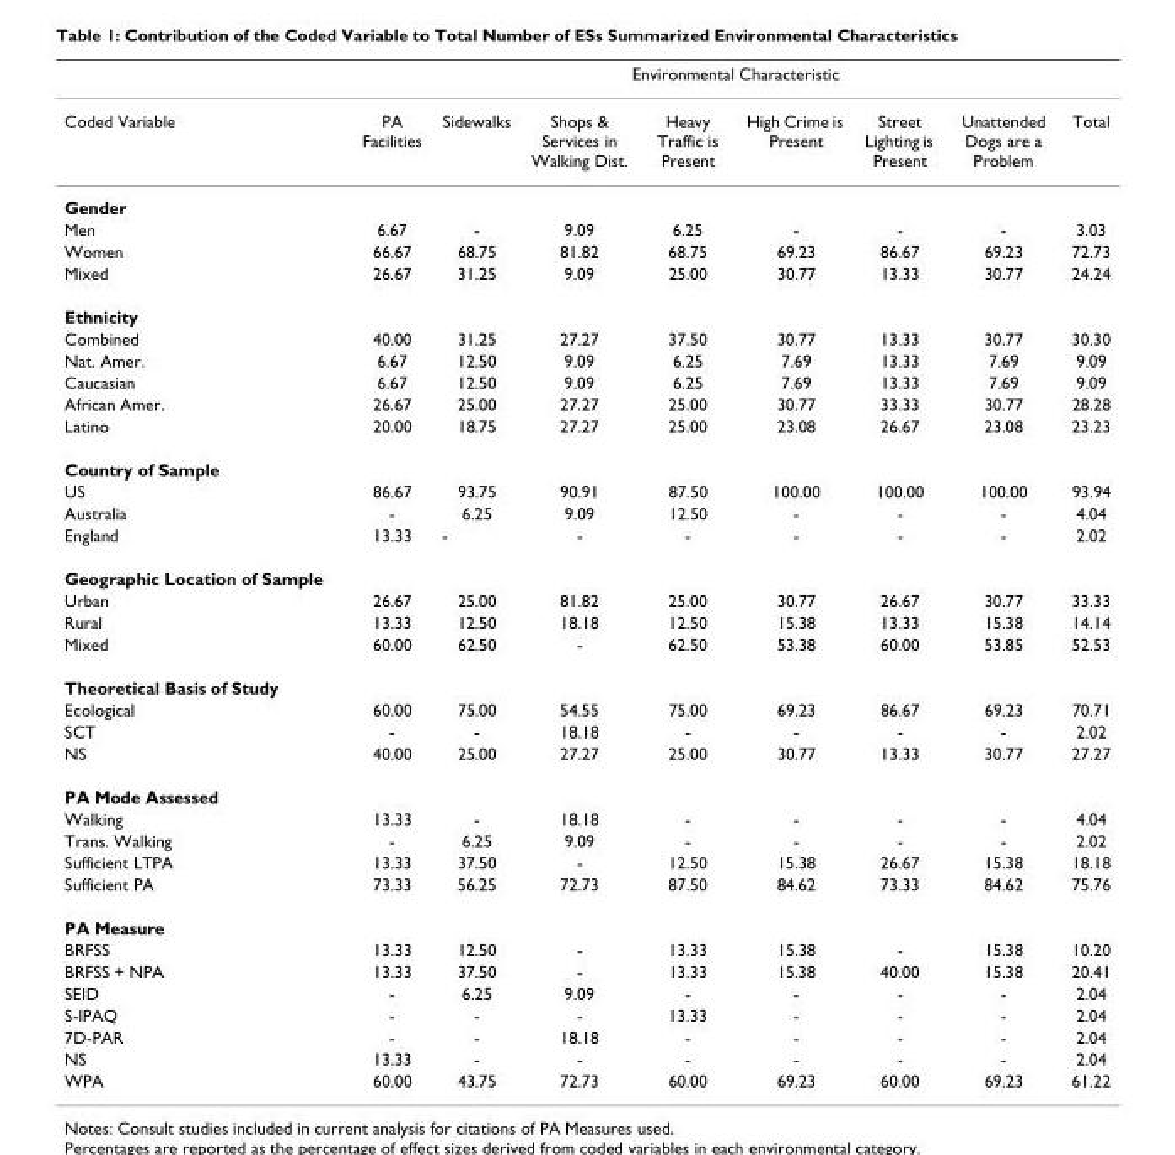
<table><thead><tr><td rowspan="2">Coded Variable</td><td colspan="8">Environmental Characteristic</td></tr><tr><td>PA Facilities</td><td>Sidewalks</td><td>Shops &amp; Services in Walking Dist.</td><td>Heavy Traffic is Present</td><td>High Crime is Present</td><td>Street Lighting is Present</td><td>Unattended Dogs are a Problem</td><td>Total</td></tr></thead><tbody><tr><td colspan="9">Gender</td></tr><tr><td>Men</td><td>6.67</td><td>-</td><td>9.09</td><td>6.25</td><td>-</td><td>-</td><td>-</td><td>3.03</td></tr><tr><td>Women</td><td>66.67</td><td>68.75</td><td>81.82</td><td>68.75</td><td>69.23</td><td>86.67</td><td>69.23</td><td>72.73</td></tr><tr><td>Mixed</td><td>26.67</td><td>31.25</td><td>9.09</td><td>25.00</td><td>30.77</td><td>13.33</td><td>30.77</td><td>24.24</td></tr><tr><td colspan="9">Ethnicity</td></tr><tr><td>Combined</td><td>40.00</td><td>31.25</td><td>27.27</td><td>37.50</td><td>30.77</td><td>13.33</td><td>30.77</td><td>30.30</td></tr><tr><td>Nat. Amer.</td><td>6.67</td><td>12.50</td><td>9.09</td><td>6.25</td><td>7.69</td><td>13.33</td><td>7.69</td><td>9.09</td></tr><tr><td>Caucasian</td><td>6.67</td><td>12.50</td><td>9.09</td><td>6.25</td><td>7.69</td><td>13.33</td><td>7.69</td><td>9.09</td></tr><tr><td>African Amer.</td><td>26.67</td><td>25.00</td><td>27.27</td><td>25.00</td><td>30.77</td><td>33.33</td><td>30.77</td><td>28.28</td></tr><tr><td>Latino</td><td>20.00</td><td>18.75</td><td>27.27</td><td>25.00</td><td>23.08</td><td>26.67</td><td>23.08</td><td>23.23</td></tr><tr><td colspan="9">Country of Sample</td></tr><tr><td>US</td><td>86.67</td><td>93.75</td><td>90.91</td><td>87.50</td><td>100.00</td><td>100.00</td><td>100.00</td><td>93.94</td></tr><tr><td>Australia</td><td>-</td><td>6.25</td><td>9.09</td><td>12.50</td><td>-</td><td>-</td><td>-</td><td>4.04</td></tr><tr><td>England</td><td>13.33</td><td>-</td><td>-</td><td>-</td><td>-</td><td>-</td><td>-</td><td>2.02</td></tr><tr><td colspan="9">Geographic Location of Sample</td></tr><tr><td>Urban</td><td>26.67</td><td>25.00</td><td>81.82</td><td>25.00</td><td>30.77</td><td>26.67</td><td>30.77</td><td>33.33</td></tr><tr><td>Rural</td><td>13.33</td><td>12.50</td><td>18.18</td><td>12.50</td><td>15.38</td><td>13.33</td><td>15.38</td><td>14.14</td></tr><tr><td>Mixed</td><td>60.00</td><td>62.50</td><td>-</td><td>62.50</td><td>53.38</td><td>60.00</td><td>53.85</td><td>52.53</td></tr><tr><td colspan="9">Theoretical Basis of Study</td></tr><tr><td>Ecological</td><td>60.00</td><td>75.00</td><td>54.55</td><td>75.00</td><td>69.23</td><td>86.67</td><td>69.23</td><td>70.71</td></tr><tr><td>SCT</td><td>-</td><td>-</td><td>18.18</td><td>-</td><td>-</td><td>-</td><td>-</td><td>2.02</td></tr><tr><td>NS</td><td>40.00</td><td>25.00</td><td>27.27</td><td>25.00</td><td>30.77</td><td>13.33</td><td>30.77</td><td>27.27</td></tr><tr><td colspan="9">PA Mode Assessed</td></tr><tr><td>Walking</td><td>13.33</td><td>-</td><td>18.18</td><td>-</td><td>-</td><td>-</td><td>-</td><td>4.04</td></tr><tr><td>Trans. Walking</td><td>-</td><td>6.25</td><td>9.09</td><td>-</td><td>-</td><td>-</td><td>-</td><td>2.02</td></tr><tr><td>Sufficient LTPA</td><td>13.33</td><td>37.50</td><td>-</td><td>12.50</td><td>15.38</td><td>26.67</td><td>15.38</td><td>18.18</td></tr><tr><td>Sufficient PA</td><td>73.33</td><td>56.25</td><td>72.73</td><td>87.50</td><td>84.62</td><td>73.33</td><td>84.62</td><td>75.76</td></tr><tr><td colspan="9">PA Measure</td></tr><tr><td>BRFSS</td><td>13.33</td><td>12.50</td><td>-</td><td>13.33</td><td>15.38</td><td>-</td><td>15.38</td><td>10.20</td></tr><tr><td>BRFSS + NPA</td><td>13.33</td><td>37.50</td><td>-</td><td>13.33</td><td>15.38</td><td>40.00</td><td>15.38</td><td>20.41</td></tr><tr><td>SEID</td><td>-</td><td>6.25</td><td>9.09</td><td>-</td><td>-</td><td>-</td><td>-</td><td>2.04</td></tr><tr><td>S-IPAQ</td><td>-</td><td>-</td><td>-</td><td>13.33</td><td>-</td><td>-</td><td>-</td><td>2.04</td></tr><tr><td>7D-PAR</td><td>-</td><td>-</td><td>18.18</td><td>-</td><td>-</td><td>-</td><td>-</td><td>2.04</td></tr><tr><td>NS</td><td>13.33</td><td>-</td><td>-</td><td>-</td><td>-</td><td>-</td><td>-</td><td>2.04</td></tr><tr><td>WPA</td><td>60.00</td><td>43.75</td><td>72.73</td><td>60.00</td><td>69.23</td><td>60.00</td><td>69.23</td><td>61.22</td></tr></tbody></table>